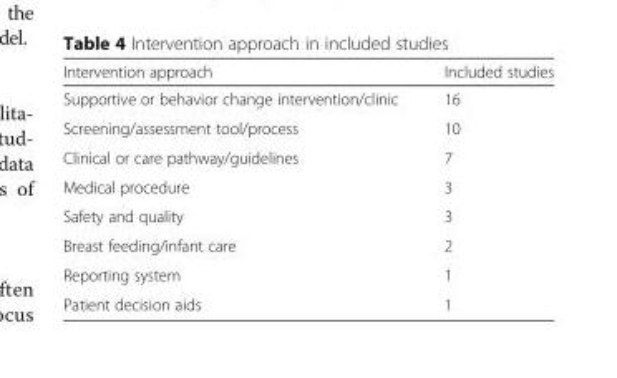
<table><thead><tr><td>Intervention approach</td><td>Included studies</td></tr></thead><tbody><tr><td>Supportive or behavior change intervention/clinic</td><td>16</td></tr><tr><td>Screening/assessment tool/process</td><td>10</td></tr><tr><td>Clinical or care pathway/guidelines</td><td>7</td></tr><tr><td>Medical procedure</td><td>3</td></tr><tr><td>Safety and quality</td><td>3</td></tr><tr><td>Breast feeding/infant care</td><td>2</td></tr><tr><td>Reporting system</td><td>1</td></tr><tr><td>Patient decision aids</td><td>1</td></tr></tbody></table>